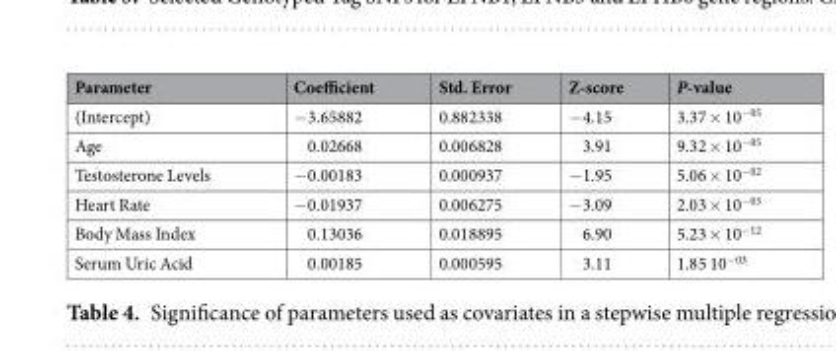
<table><thead><tr><td>Parameter</td><td>Coefficient</td><td>Std. Error</td><td>Z-score</td><td>P-value</td></tr></thead><tbody><tr><td>(Intercept)</td><td>−3.65882</td><td>0.882338</td><td>−4.15</td><td>3.37 × 10<sup>−05</sup></td></tr><tr><td>Age</td><td>0.02668</td><td>0.006828</td><td>3.91</td><td>9.32 × 10<sup>−05</sup></td></tr><tr><td>Testosterone Levels</td><td>−0.00183</td><td>0.000937</td><td>−1.95</td><td>5.06 × 10<sup>−02</sup></td></tr><tr><td>Heart Rate</td><td>−0.01937</td><td>0.006275</td><td>−3.09</td><td>2.03 × 10<sup>−03</sup></td></tr><tr><td>Body Mass Index</td><td>0.13036</td><td>0.018895</td><td>6.90</td><td>5.23 × 10<sup>−12</sup></td></tr><tr><td>Serum Uric Acid</td><td>0.00185</td><td>0.000595</td><td>3.11</td><td>1.85 10<sup>−03</sup></td></tr></tbody></table>